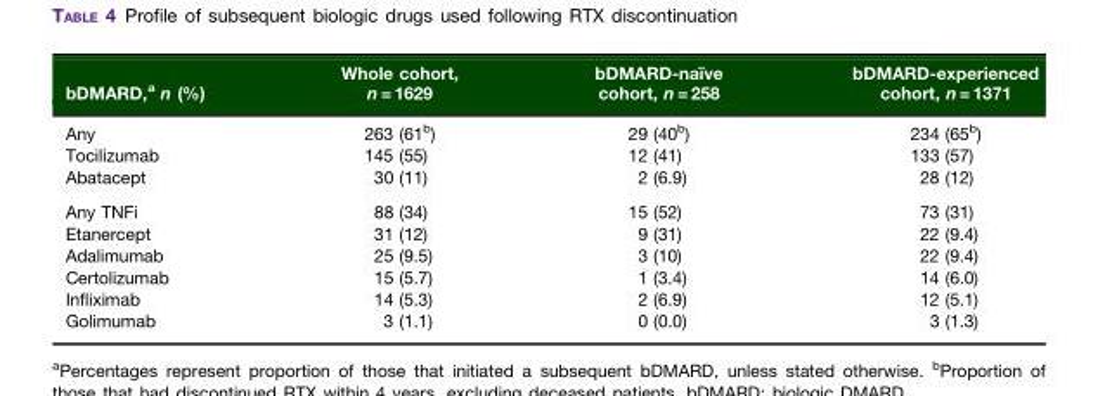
<table><thead><tr><td>bDMARD,<sup>a</sup> n (%)</td><td>Whole cohort, n = 1629</td><td>bDMARD-naı¨ve cohort, n = 258</td><td>bDMARD-experienced cohort, n = 1371</td></tr></thead><tbody><tr><td>Any</td><td>263 (61<sup>b</sup>)</td><td>29 (40<sup>b</sup>)</td><td>234 (65<sup>b</sup>)</td></tr><tr><td>Tocilizumab</td><td>145 (55)</td><td>12 (41)</td><td>133 (57)</td></tr><tr><td>Abatacept</td><td>30 (11)</td><td>2 (6.9)</td><td>28 (12)</td></tr><tr><td>Any TNFi</td><td>88 (34)</td><td>15 (52)</td><td>73 (31)</td></tr><tr><td>Etanercept</td><td>31 (12)</td><td>9 (31)</td><td>22 (9.4)</td></tr><tr><td>Adalimumab</td><td>25 (9.5)</td><td>3 (10)</td><td>22 (9.4)</td></tr><tr><td>Certolizumab</td><td>15 (5.7)</td><td>1 (3.4)</td><td>14 (6.0)</td></tr><tr><td>Infliximab</td><td>14 (5.3)</td><td>2 (6.9)</td><td>12 (5.1)</td></tr><tr><td>Golimumab</td><td>3 (1.1)</td><td>0 (0.0)</td><td>3 (1.3)</td></tr></tbody></table>